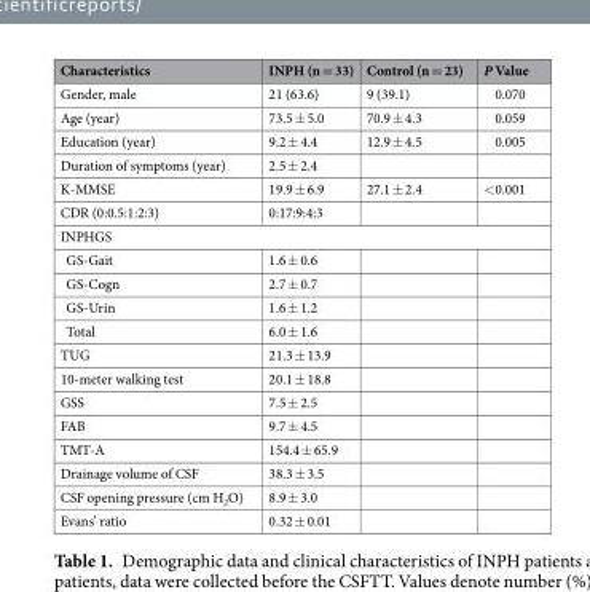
<table><thead><tr><td>Characteristics</td><td>INPH (n = 33)</td><td>Control (n = 23)</td><td>P Value</td></tr></thead><tbody><tr><td>Gender, male</td><td>21 (63.6)</td><td>9 (39.1)</td><td>0.070</td></tr><tr><td>Age (year)</td><td>73.5 ± 5.0</td><td>70.9 ± 4.3</td><td>0.059</td></tr><tr><td>Education (year)</td><td>9.2 ± 4.4</td><td>12.9 ± 4.5</td><td>0.005</td></tr><tr><td>Duration of symptoms (year)</td><td>2.5 ± 2.4</td><td></td><td></td></tr><tr><td>K-MMSE</td><td>19.9 ± 6.9</td><td>27.1 ± 2.4</td><td>&lt;0.001</td></tr><tr><td>CDR (0:0.5:1:2:3)</td><td>0:17:9:4:3</td><td></td><td></td></tr><tr><td colspan="4">INPHGS</td></tr><tr><td>GS-Gait</td><td>1.6 ± 0.6</td><td></td><td></td></tr><tr><td>GS-Cogn</td><td>2.7 ± 0.7</td><td></td><td></td></tr><tr><td>GS-Urin</td><td>1.6 ± 1.2</td><td></td><td></td></tr><tr><td>Total</td><td>6.0 ± 1.6</td><td></td><td></td></tr><tr><td>TUG</td><td>21.3 ± 13.9</td><td></td><td></td></tr><tr><td>10-meter walking test</td><td>20.1 ± 18.8</td><td></td><td></td></tr><tr><td>GSS</td><td>7.5 ± 2.5</td><td></td><td></td></tr><tr><td>FAB</td><td>9.7 ± 4.5</td><td></td><td></td></tr><tr><td>TMT-A</td><td>154.4 ± 65.9</td><td></td><td></td></tr><tr><td>Drainage volume of CSF</td><td>38.3 ± 3.5</td><td></td><td></td></tr><tr><td>CSF opening pressure (cm H<sub>2</sub>O)</td><td>8.9 ± 3.0</td><td></td><td></td></tr><tr><td>Evans’ ratio</td><td>0.32 ± 0.01</td><td></td><td></td></tr></tbody></table>